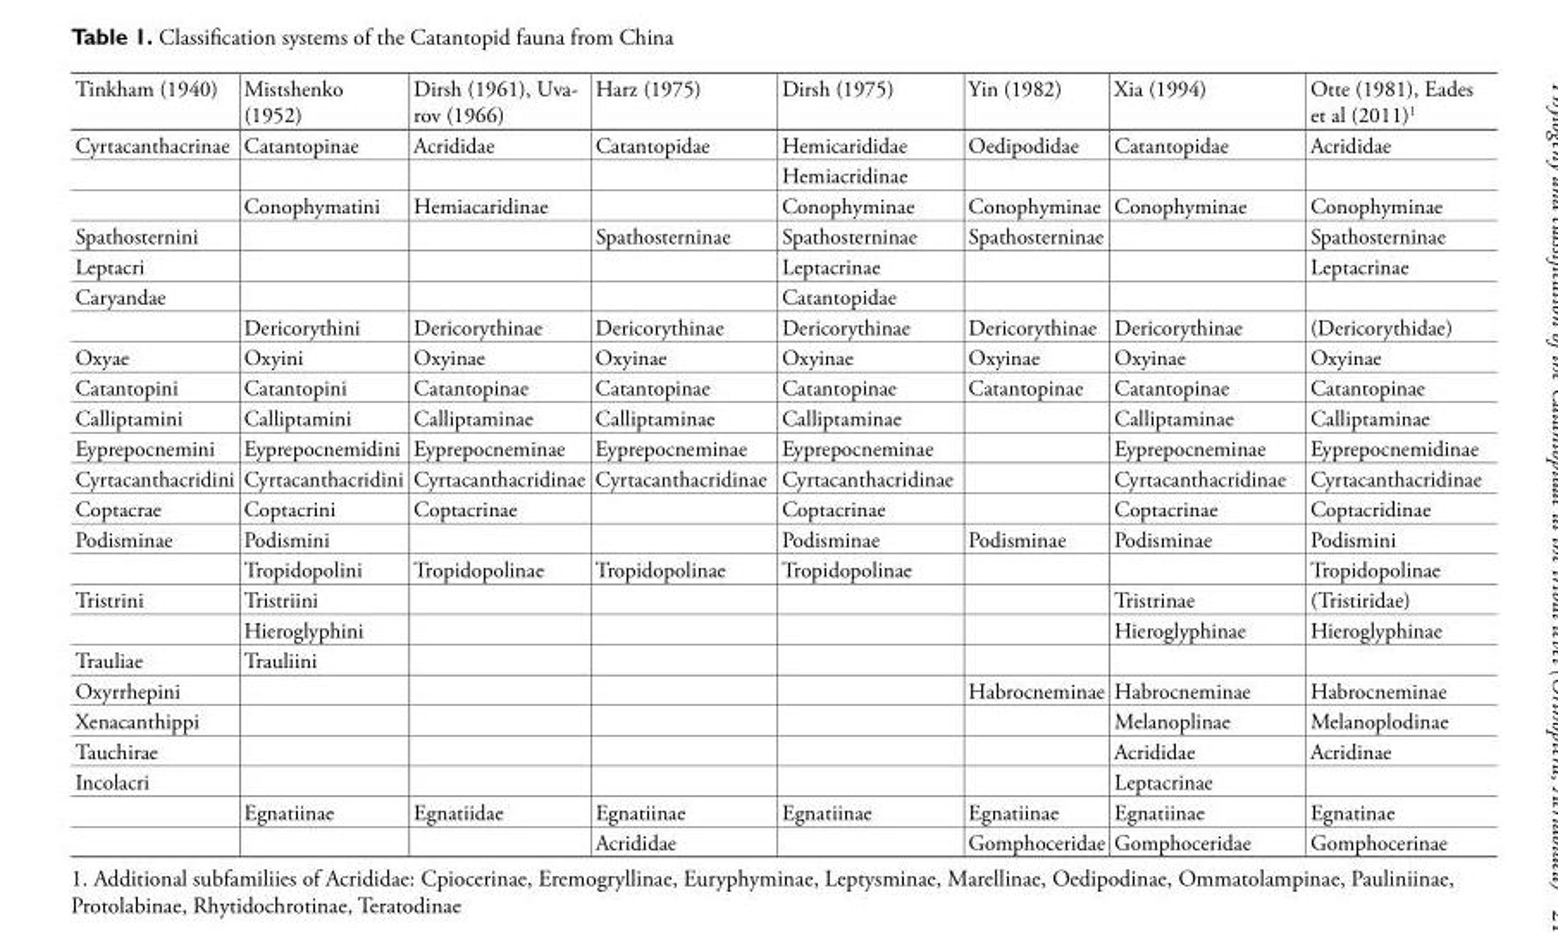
<table><thead><tr><td>Tinkham (1940)</td><td>Mistshenko (1952)</td><td>Dirsh (1961), Uva- rov (1966)</td><td>Harz (1975)</td><td>Dirsh (1975)</td><td>Yin (1982)</td><td>Xia (1994)</td><td>Otte (1981), Eades et al (2011)1</td></tr></thead><tbody><tr><td rowspan="3">Cyrtacanthacrinae</td><td>Catantopinae</td><td>Acrididae</td><td>Catantopidae</td><td>Hemicarididae</td><td>Oedipodidae</td><td>Catantopidae</td><td>Acrididae</td></tr><tr><td></td><td></td><td></td><td>Hemiacridinae</td><td></td><td></td><td></td></tr><tr><td>Conophymatini</td><td>Hemiacaridinae</td><td></td><td>Conophyminae</td><td>Conophyminae</td><td>Conophyminae</td><td>Conophyminae</td></tr><tr><td>Spathosternini</td><td></td><td></td><td>Spathosterninae</td><td>Spathosterninae</td><td>Spathosterninae</td><td></td><td>Spathosterninae</td></tr><tr><td>Leptacri</td><td></td><td></td><td></td><td>Leptacrinae</td><td></td><td></td><td>Leptacrinae</td></tr><tr><td rowspan="2">Caryandae</td><td></td><td></td><td></td><td>Catantopidae</td><td></td><td></td><td></td></tr><tr><td>Dericorythini</td><td>Dericorythinae</td><td>Dericorythinae</td><td>Dericorythinae</td><td>Dericorythinae</td><td>Dericorythinae</td><td>(Dericorythidae)</td></tr><tr><td>Oxyae</td><td>Oxyini</td><td>Oxyinae</td><td>Oxyinae</td><td>Oxyinae</td><td>Oxyinae</td><td>Oxyinae</td><td>Oxyinae</td></tr><tr><td>Catantopini</td><td>Catantopini</td><td>Catantopinae</td><td>Catantopinae</td><td>Catantopinae</td><td>Catantopinae</td><td>Catantopinae</td><td>Catantopinae</td></tr><tr><td>Calliptamini</td><td>Calliptamini</td><td>Calliptaminae</td><td>Calliptaminae</td><td>Calliptaminae</td><td></td><td>Calliptaminae</td><td>Calliptaminae</td></tr><tr><td>Eyprepocnemini</td><td>Eyprepocnemidini</td><td>Eyprepocneminae</td><td>Eyprepocneminae</td><td>Eyprepocneminae</td><td></td><td>Eyprepocneminae</td><td>Eyprepocnemidinae</td></tr><tr><td>Cyrtacanthacridini</td><td>Cyrtacanthacridini</td><td>Cyrtacanthacridinae</td><td>Cyrtacanthacridinae</td><td>Cyrtacanthacridinae</td><td></td><td>Cyrtacanthacridinae</td><td>Cyrtacanthacridinae</td></tr><tr><td>Coptacrae</td><td>Coptacrini</td><td>Coptacrinae</td><td></td><td>Coptacrinae</td><td></td><td>Coptacrinae</td><td>Coptacridinae</td></tr><tr><td rowspan="2">Podisminae</td><td>Podismini</td><td></td><td></td><td>Podisminae</td><td>Podisminae</td><td>Podisminae</td><td>Podismini</td></tr><tr><td>Tropidopolini</td><td>Tropidopolinae</td><td>Tropidopolinae</td><td>Tropidopolinae</td><td></td><td></td><td>Tropidopolinae</td></tr><tr><td rowspan="2">Tristrini</td><td>Tristriini</td><td></td><td></td><td></td><td></td><td>Tristrinae</td><td>(Tristiridae)</td></tr><tr><td>Hieroglyphini</td><td></td><td></td><td></td><td></td><td>Hieroglyphinae</td><td>Hieroglyphinae</td></tr><tr><td>Trauliae</td><td>Trauliini</td><td></td><td></td><td></td><td></td><td></td><td></td></tr><tr><td>Oxyrrhepini</td><td></td><td></td><td></td><td></td><td>Habrocneminae</td><td>Habrocneminae</td><td>Habrocneminae</td></tr><tr><td>Xenacanthippi</td><td></td><td></td><td></td><td></td><td></td><td>Melanoplinae</td><td>Melanoplodinae</td></tr><tr><td>Tauchirae</td><td></td><td></td><td></td><td></td><td></td><td>Acrididae</td><td>Acridinae</td></tr><tr><td rowspan="3">Incolacri</td><td></td><td></td><td></td><td></td><td></td><td>Leptacrinae</td><td></td></tr><tr><td>Egnatiinae</td><td>Egnatiidae</td><td>Egnatiinae</td><td>Egnatiinae</td><td>Egnatiinae</td><td>Egnatiinae</td><td>Egnatinae</td></tr><tr><td></td><td></td><td>Acrididae</td><td></td><td>Gomphoceridae</td><td>Gomphoceridae</td><td>Gomphocerinae</td></tr></tbody></table>